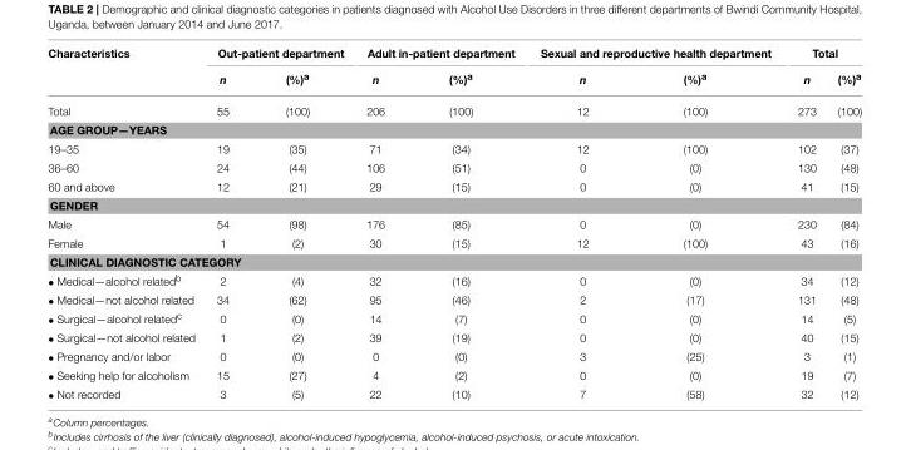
<table><thead><tr><td rowspan="2">Characteristics</td><td colspan="2">Out-patient department</td><td colspan="2">Adult in-patient department</td><td colspan="2">Sexual and reproductive health department</td><td colspan="2">Total</td></tr><tr><td>n</td><td>(%)<sup>a</sup></td><td>n</td><td>(%)<sup>a</sup></td><td>n</td><td>(%)<sup>a</sup></td><td>n</td><td>(%)<sup>a</sup></td></tr></thead><tbody><tr><td>Total</td><td>55</td><td>(100)</td><td>206</td><td>(100)</td><td>12</td><td>(100)</td><td>273</td><td>(100)</td></tr><tr><td colspan="9">AGE GROUP—YEARS</td></tr><tr><td>19–35</td><td>19</td><td>(35)</td><td>71</td><td>(34)</td><td>12</td><td>(100)</td><td>102</td><td>(37)</td></tr><tr><td>36–60</td><td>24</td><td>(44)</td><td>106</td><td>(51)</td><td>0</td><td>(0)</td><td>130</td><td>(48)</td></tr><tr><td>60 and above</td><td>12</td><td>(21)</td><td>29</td><td>(15)</td><td>0</td><td>(0)</td><td>41</td><td>(15)</td></tr><tr><td colspan="9">GENDER</td></tr><tr><td>Male</td><td>54</td><td>(98)</td><td>176</td><td>(85)</td><td>0</td><td>(0)</td><td>230</td><td>(84)</td></tr><tr><td>Female</td><td>1</td><td>(2)</td><td>30</td><td>(15)</td><td>12</td><td>(100)</td><td>43</td><td>(16)</td></tr><tr><td colspan="9">CLINICAL DIAGNOSTIC CATEGORY</td></tr><tr><td>• Medical—alcohol related<sup>b</sup></td><td>2</td><td>(4)</td><td>32</td><td>(16)</td><td>0</td><td>(0)</td><td>34</td><td>(12)</td></tr><tr><td>• Medical—not alcohol related</td><td>34</td><td>(62)</td><td>95</td><td>(46)</td><td>2</td><td>(17)</td><td>131</td><td>(48)</td></tr><tr><td>• Surgical—alcohol related<sup>c</sup></td><td>0</td><td>(0)</td><td>14</td><td>(7)</td><td>0</td><td>(0)</td><td>14</td><td>(5)</td></tr><tr><td>• Surgical—not alcohol related</td><td>1</td><td>(2)</td><td>39</td><td>(19)</td><td>0</td><td>(0)</td><td>40</td><td>(15)</td></tr><tr><td>• Pregnancy and/or labor</td><td>0</td><td>(0)</td><td>0</td><td>(0)</td><td>3</td><td>(25)</td><td>3</td><td>(1)</td></tr><tr><td>• Seeking help for alcoholism</td><td>15</td><td>(27)</td><td>4</td><td>(2)</td><td>0</td><td>(0)</td><td>19</td><td>(7)</td></tr><tr><td>• Not recorded</td><td>3</td><td>(5)</td><td>22</td><td>(10)</td><td>7</td><td>(58)</td><td>32</td><td>(12)</td></tr></tbody></table>